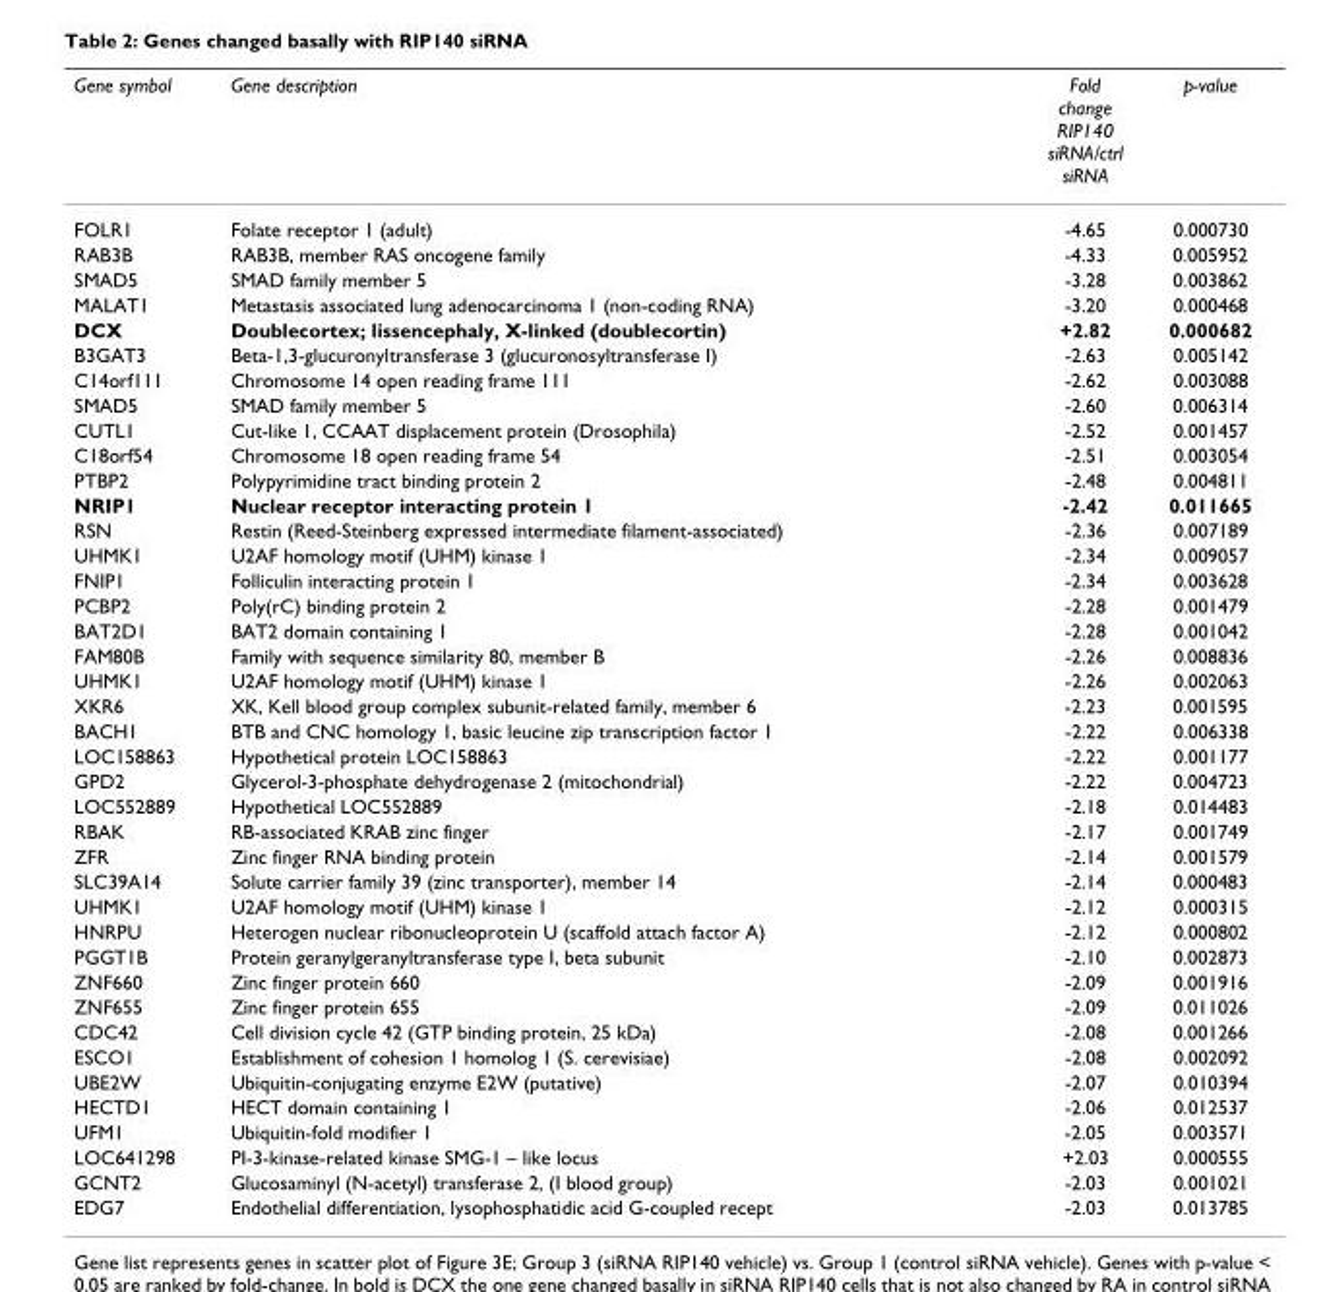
<table><thead><tr><td>Gene symbol</td><td>Gene description</td><td>Fold change RIP140 siRNA/ctrl siRNA</td><td>p-value</td></tr></thead><tbody><tr><td>FOLR1</td><td>Folate receptor 1 (adult)</td><td>-4.65</td><td>0.000730</td></tr><tr><td>RAB3B</td><td>RAB3B, member RAS oncogene family</td><td>-4.33</td><td>0.005952</td></tr><tr><td>SMAD5</td><td>SMAD family member 5</td><td>-3.28</td><td>0.003862</td></tr><tr><td>MALAT1</td><td>Metastasis associated lung adenocarcinoma 1 (non-coding RNA)</td><td>-3.20</td><td>0.000468</td></tr><tr><td>DCX</td><td>Doublecortex; lissencephaly, X-linked (doublecortin)</td><td>+2.82</td><td>0.000682</td></tr><tr><td>B3GAT3</td><td>Beta-1,3-glucuronyltransferase 3 (glucuronosyltransferase I)</td><td>-2.63</td><td>0.005142</td></tr><tr><td>C14orf111</td><td>Chromosome 14 open reading frame 111</td><td>-2.62</td><td>0.003088</td></tr><tr><td>SMAD5</td><td>SMAD family member 5</td><td>-2.60</td><td>0.006314</td></tr><tr><td>CUTL1</td><td>Cut-like 1, CCAAT displacement protein (Drosophila)</td><td>-2.52</td><td>0.001457</td></tr><tr><td>C18orf54</td><td>Chromosome 18 open reading frame 54</td><td>-2.51</td><td>0.003054</td></tr><tr><td>PTBP2</td><td>Polypyrimidine tract binding protein 2</td><td>-2.48</td><td>0.004811</td></tr><tr><td>NRIP1</td><td>Nuclear receptor interacting protein 1</td><td>-2.42</td><td>0.011665</td></tr><tr><td>RSN</td><td>Restin (Reed-Steinberg expressed intermediate filament-associated)</td><td>-2.36</td><td>0.007189</td></tr><tr><td>UHMK1</td><td>U2AF homology motif (UHM) kinase 1</td><td>-2.34</td><td>0.009057</td></tr><tr><td>FNIP1</td><td>Folliculin interacting protein 1</td><td>-2.34</td><td>0.003628</td></tr><tr><td>PCBP2</td><td>Poly(rC) binding protein 2</td><td>-2.28</td><td>0.001479</td></tr><tr><td>BAT2D1</td><td>BAT2 domain containing 1</td><td>-2.28</td><td>0.001042</td></tr><tr><td>FAM80B</td><td>Family with sequence similarity 80, member B</td><td>-2.26</td><td>0.008836</td></tr><tr><td>UHMK1</td><td>U2AF homology motif (UHM) kinase 1</td><td>-2.26</td><td>0.002063</td></tr><tr><td>XKR6</td><td>XK, Kell blood group complex subunit-related family, member 6</td><td>-2.23</td><td>0.001595</td></tr><tr><td>BACH1</td><td>BTB and CNC homology 1, basic leucine zip transcription factor 1</td><td>-2.22</td><td>0.006338</td></tr><tr><td>LOC158863</td><td>Hypothetical protein LOC158863</td><td>-2.22</td><td>0.001177</td></tr><tr><td>GPD2</td><td>Glycerol-3-phosphate dehydrogenase 2 (mitochondrial)</td><td>-2.22</td><td>0.004723</td></tr><tr><td>LOC552889</td><td>Hypothetical LOC552889</td><td>-2.18</td><td>0.014483</td></tr><tr><td>RBAK</td><td>RB-associated KRAB zinc finger</td><td>-2.17</td><td>0.001749</td></tr><tr><td>ZFR</td><td>Zinc finger RNA binding protein</td><td>-2.14</td><td>0.001579</td></tr><tr><td>SLC39A14</td><td>Solute carrier family 39 (zinc transporter), member 14</td><td>-2.14</td><td>0.000483</td></tr><tr><td>UHMK1</td><td>U2AF homology motif (UHM) kinase 1</td><td>-2.12</td><td>0.000315</td></tr><tr><td>HNRPU</td><td>Heterogen nuclear ribonucleoprotein U (scaffold attach factor A)</td><td>-2.12</td><td>0.000802</td></tr><tr><td>PGGT1B</td><td>Protein geranylgeranyltransferase type I, beta subunit</td><td>-2.10</td><td>0.002873</td></tr><tr><td>ZNF660</td><td>Zinc finger protein 660</td><td>-2.09</td><td>0.001916</td></tr><tr><td>ZNF655</td><td>Zinc finger protein 655</td><td>-2.09</td><td>0.011026</td></tr><tr><td>CDC42</td><td>Cell division cycle 42 (GTP binding protein, 25 kDa)</td><td>-2.08</td><td>0.001266</td></tr><tr><td>ESCO1</td><td>Establishment of cohesion 1 homolog 1 (S. cerevisiae)</td><td>-2.08</td><td>0.002092</td></tr><tr><td>UBE2W</td><td>Ubiquitin-conjugating enzyme E2W (putative)</td><td>-2.07</td><td>0.010394</td></tr><tr><td>HECTD1</td><td>HECT domain containing 1</td><td>-2.06</td><td>0.012537</td></tr><tr><td>UFM1</td><td>Ubiquitin-fold modifier 1</td><td>-2.05</td><td>0.003571</td></tr><tr><td>LOC641298</td><td>PI-3-kinase-related kinase SMG-1 – like locus</td><td>+2.03</td><td>0.000555</td></tr><tr><td>GCNT2</td><td>Glucosaminyl (N-acetyl) transferase 2, (I blood group)</td><td>-2.03</td><td>0.001021</td></tr><tr><td>EDG7</td><td>Endothelial differentiation, lysophosphatidic acid G-coupled recept</td><td>-2.03</td><td>0.013785</td></tr></tbody></table>